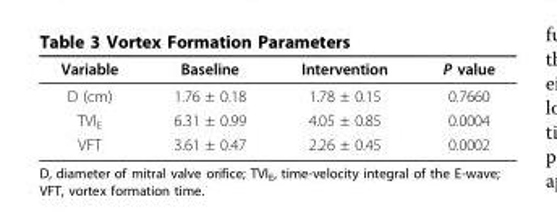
<table><thead><tr><td>Variable</td><td>Baseline</td><td>Intervention</td><td>P value</td></tr></thead><tbody><tr><td>D (cm)</td><td>1.76 ± 0.18</td><td>1.78 ± 0.15</td><td>0.7660</td></tr><tr><td>TVI<sub>E</sub></td><td>6.31 ± 0.99</td><td>4.05 ± 0.85</td><td>0.0004</td></tr><tr><td>VFT</td><td>3.61 ± 0.47</td><td>2.26 ± 0.45</td><td>0.0002</td></tr></tbody></table>